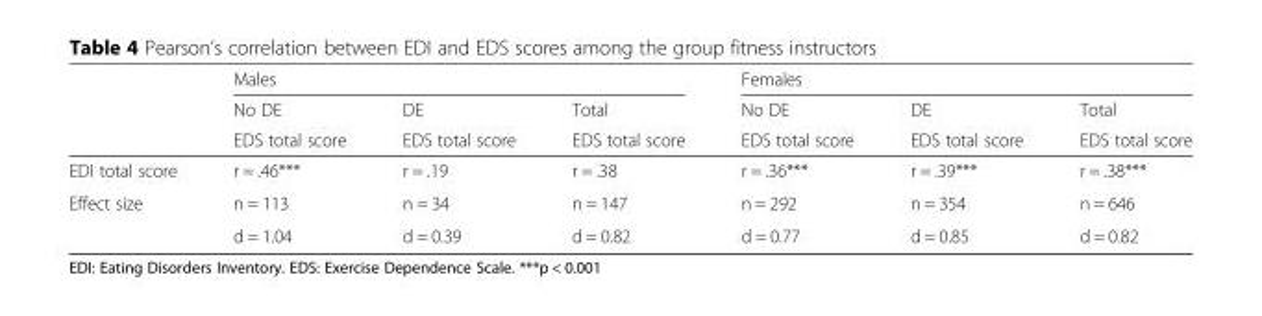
<table><thead><tr><td rowspan="3"></td><td rowspan="3">Males No DE EDS total score</td><td rowspan="3">DE EDS total score</td><td rowspan="3">Total EDS total score</td><td rowspan="3">Females No DE EDS total score</td><td rowspan="3">DE EDS total score</td><td rowspan="3">Total EDS total score</td></tr><tr></tr><tr></tr></thead><tbody><tr><td>EDI total score</td><td>r = .46***</td><td>r = .19</td><td>r = .38</td><td>r = .36***</td><td>r = .39***</td><td>r = .38***</td></tr><tr><td rowspan="2">Effect size</td><td>n = 113</td><td>n = 34</td><td>n = 147</td><td>n = 292</td><td>n = 354</td><td>n = 646</td></tr><tr><td>d = 1.04</td><td>d = 0.39</td><td>d = 0.82</td><td>d = 0.77</td><td>d = 0.85</td><td>d = 0.82</td></tr></tbody></table>